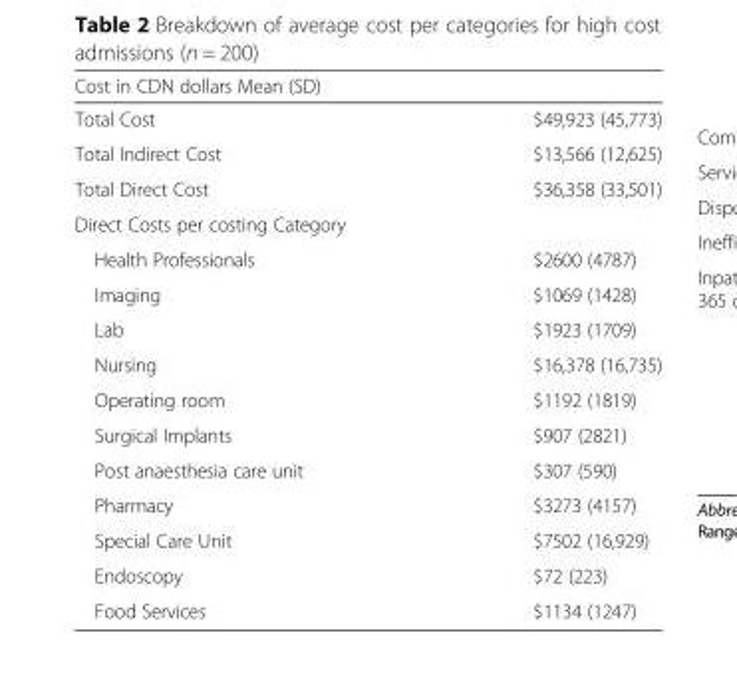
<table><thead><tr><td colspan="2">Cost in CDN dollars Mean (SD)</td></tr><tr><td>Total Cost</td><td>$49,923 (45,773)</td></tr></thead><tbody><tr><td>Total Indirect Cost</td><td>$13,566 (12,625)</td></tr><tr><td>Total Direct Cost</td><td>$36,358 (33,501)</td></tr><tr><td colspan="2">Direct Costs per costing Category</td></tr><tr><td>Health Professionals</td><td>$2600 (4787)</td></tr><tr><td>Imaging</td><td>$1069 (1428)</td></tr><tr><td>Lab</td><td>$1923 (1709)</td></tr><tr><td>Nursing</td><td>$16,378 (16,735)</td></tr><tr><td>Operating room</td><td>$1192 (1819)</td></tr><tr><td>Surgical Implants</td><td>$907 (2821)</td></tr><tr><td>Post anaesthesia care unit</td><td>$307 (590)</td></tr><tr><td>Pharmacy</td><td>$3273 (4157)</td></tr><tr><td>Special Care Unit</td><td>$7502 (16,929)</td></tr><tr><td>Endoscopy</td><td>$72 (223)</td></tr><tr><td>Food Services</td><td>$1134 (1247)</td></tr></tbody></table>